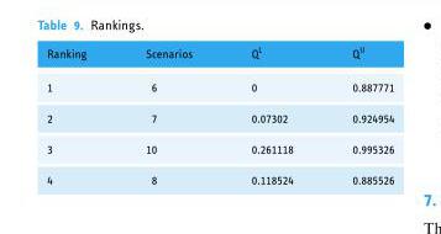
<table><thead><tr><td>Ranking</td><td>Scenarios</td><td>Q<sup>L</sup></td><td>Q<sup>U</sup></td></tr></thead><tbody><tr><td>1</td><td>6</td><td>0</td><td>0.887771</td></tr><tr><td>2</td><td>7</td><td>0.07302</td><td>0.924954</td></tr><tr><td>3</td><td>10</td><td>0.261118</td><td>0.995326</td></tr><tr><td>4</td><td>8</td><td>0.118524</td><td>0.885526</td></tr></tbody></table>